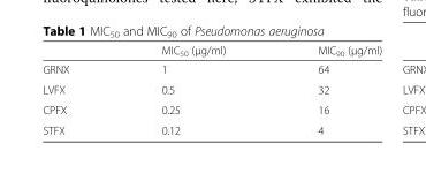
<table><thead><tr><td></td><td>MIC<sub>50</sub> (μg/ml)</td><td>MIC<sub>90</sub> (μg/ml)</td></tr></thead><tbody><tr><td>GRNX</td><td>1</td><td>64</td></tr><tr><td>LVFX</td><td>0.5</td><td>32</td></tr><tr><td>CPFX</td><td>0.25</td><td>16</td></tr><tr><td>STFX</td><td>0.12</td><td>4</td></tr></tbody></table>